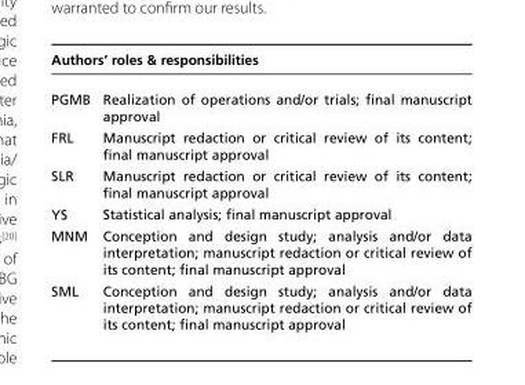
<table><thead><tr><td colspan="2">Authors’ roles &amp; responsibilities</td></tr><tr><td>PGMB</td><td>Realization of operations and/or trials; final manuscript approval</td></tr></thead><tbody><tr><td>FRL</td><td>Manuscript redaction or critical review of its content; final manuscript approval</td></tr><tr><td>SLR</td><td>Manuscript redaction or critical review of its content; final manuscript approval</td></tr><tr><td>YS</td><td>Statistical analysis; final manuscript approval</td></tr><tr><td>MNM</td><td>Conception and design study; analysis and/or data interpretation; manuscript redaction or critical review of its content; final manuscript approval</td></tr><tr><td>SML</td><td>Conception and design study; analysis and/or data interpretation; manuscript redaction or critical review of its content; final manuscript approval</td></tr></tbody></table>